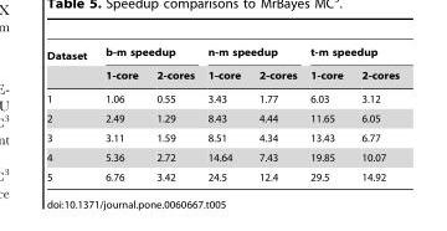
<table><thead><tr><td rowspan="2">Dataset</td><td colspan="2">b-m speedup</td><td colspan="2">n-m speedup</td><td colspan="2">t-m speedup</td></tr><tr><td>1-core</td><td>2-cores</td><td>1-core</td><td>2-cores</td><td>1-core</td><td>2-cores</td></tr></thead><tbody><tr><td>1</td><td>1.06</td><td>0.55</td><td>3.43</td><td>1.77</td><td>6.03</td><td>3.12</td></tr><tr><td>2</td><td>2.49</td><td>1.29</td><td>8.43</td><td>4.44</td><td>11.65</td><td>6.05</td></tr><tr><td>3</td><td>3.11</td><td>1.59</td><td>8.51</td><td>4.34</td><td>13.43</td><td>6.77</td></tr><tr><td>4</td><td>5.36</td><td>2.72</td><td>14.64</td><td>7.43</td><td>19.85</td><td>10.07</td></tr><tr><td>5</td><td>6.76</td><td>3.42</td><td>24.5</td><td>12.4</td><td>29.5</td><td>14.92</td></tr></tbody></table>